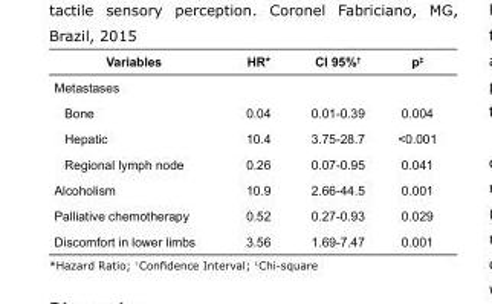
<table><tbody><tr><td>Variables</td><td>HR*</td><td>CI 95%<sup>†</sup></td><td>p<sup>‡</sup></td></tr><tr><td colspan="4">Metastases</td></tr><tr><td>Bone</td><td>0.04</td><td>0.01-0.39</td><td>0.004</td></tr><tr><td>Hepatic</td><td>10.4</td><td>3.75-28.7</td><td>&lt;0.001</td></tr><tr><td>Regional lymph node</td><td>0.26</td><td>0.07-0.95</td><td>0.041</td></tr><tr><td>Alcoholism</td><td>10.9</td><td>2.66-44.5</td><td>0.001</td></tr><tr><td>Palliative chemotherapy</td><td>0.52</td><td>0.27-0.93</td><td>0.029</td></tr><tr><td>Discomfort in lower limbs</td><td>3.56</td><td>1.69-7.47</td><td>0.001</td></tr></tbody></table>